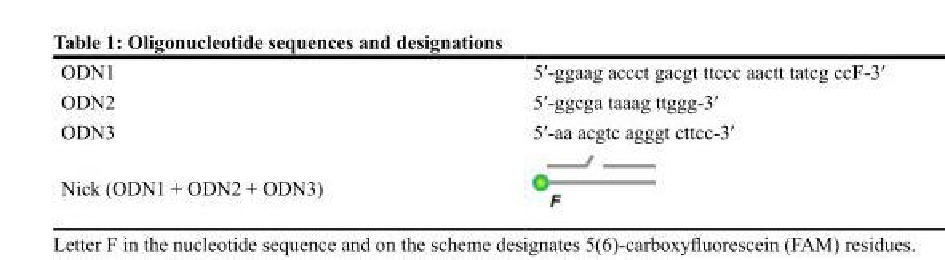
<table><tbody><tr><td>ODN1</td><td>5′-ggaag accct gacgt ttccc aactt tatcg ccF-3′</td></tr><tr><td>ODN2</td><td>5′-ggcga taaag ttggg-3′</td></tr><tr><td>ODN3</td><td>5′-aa acgtc agggt cttcc-3′</td></tr><tr><td>Nick (ODN1 + ODN2 + ODN3)</td><td></td></tr></tbody></table>